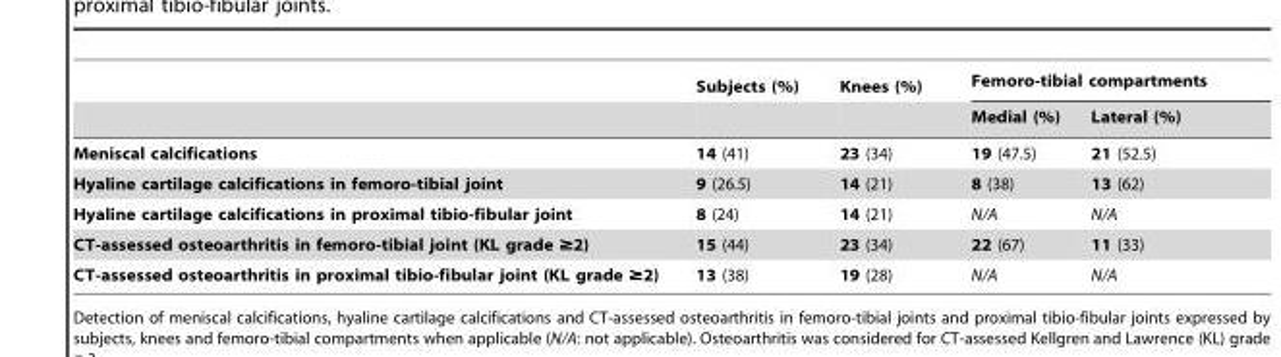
<table><thead><tr><td rowspan="2"></td><td rowspan="2">Subjects (%)</td><td rowspan="2">Knees (%)</td><td colspan="2">Femoro-tibial compartments</td></tr><tr><td>Medial (%)</td><td>Lateral (%)</td></tr></thead><tbody><tr><td>Meniscal calcifications</td><td>14 (41)</td><td>23 (34)</td><td>19 (47.5)</td><td>21 (52.5)</td></tr><tr><td>Hyaline cartilage calcifications in femoro-tibial joint</td><td>9 (26.5)</td><td>14 (21)</td><td>8 (38)</td><td>13 (62)</td></tr><tr><td>Hyaline cartilage calcifications in proximal tibio-fibular joint</td><td>8 (24)</td><td>14 (21)</td><td>N/A</td><td>N/A</td></tr><tr><td>CT-assessed osteoarthritis in femoro-tibial joint (KL grade ≥2)</td><td>15 (44)</td><td>23 (34)</td><td>22 (67)</td><td>11 (33)</td></tr><tr><td>CT-assessed osteoarthritis in proximal tibio-fibular joint (KL grade ≥2)</td><td>13 (38)</td><td>19 (28)</td><td>N/A</td><td>N/A</td></tr></tbody></table>